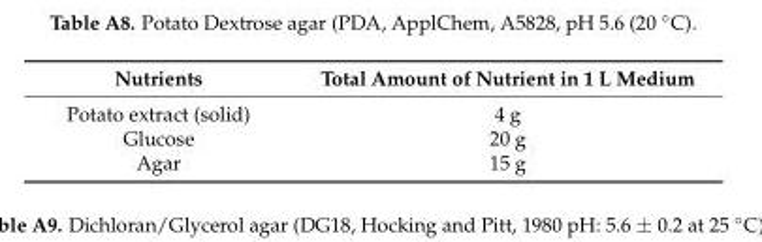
<table><thead><tr><td>Nutrients</td><td>Total Amount of Nutrient in 1 L Medium</td></tr></thead><tbody><tr><td>Potato extract (solid)</td><td>4 g</td></tr><tr><td>Glucose</td><td>20 g</td></tr><tr><td>Agar</td><td>15 g</td></tr></tbody></table>